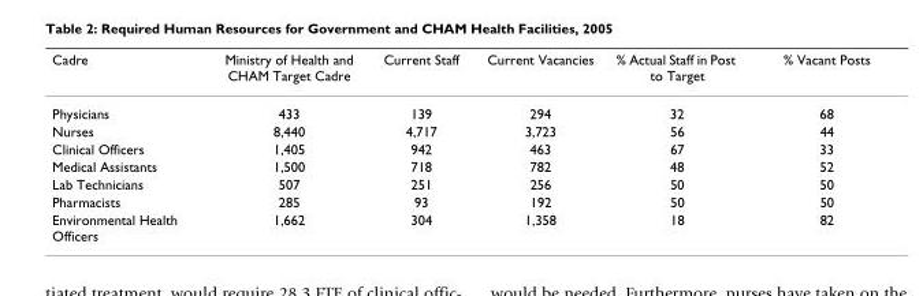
<table><thead><tr><td>Cadre</td><td>Ministry of Health and CHAM Target Cadre</td><td>Current Staff</td><td>Current Vacancies</td><td>% Actual Staff in Post to Target</td><td>% Vacant Posts</td></tr></thead><tbody><tr><td>Physicians</td><td>433</td><td>139</td><td>294</td><td>32</td><td>68</td></tr><tr><td>Nurses</td><td>8,440</td><td>4,717</td><td>3,723</td><td>56</td><td>44</td></tr><tr><td>Clinical Officers</td><td>1,405</td><td>942</td><td>463</td><td>67</td><td>33</td></tr><tr><td>Medical Assistants</td><td>1,500</td><td>718</td><td>782</td><td>48</td><td>52</td></tr><tr><td>Lab Technicians</td><td>507</td><td>251</td><td>256</td><td>50</td><td>50</td></tr><tr><td>Pharmacists</td><td>285</td><td>93</td><td>192</td><td>50</td><td>50</td></tr><tr><td>Environmental Health Officers</td><td>1,662</td><td>304</td><td>1,358</td><td>18</td><td>82</td></tr></tbody></table>